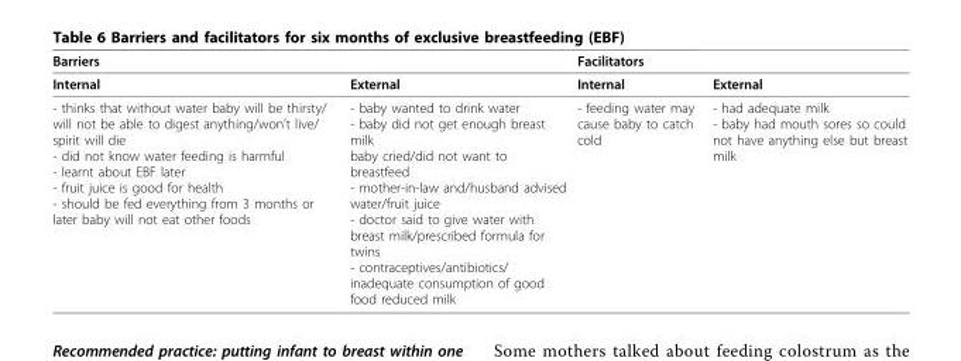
<table><thead><tr><td colspan="2">Barriers</td><td colspan="2">Facilitators</td></tr><tr><td>Internal</td><td>External</td><td>Internal</td><td>External</td></tr></thead><tbody><tr><td>- thinks that without water baby will be thirsty/ will not be able to digest anything/won’t live/ spirit will die - did not know water feeding is harmful - learnt about EBF later - fruit juice is good for health - should be fed everything from 3 months or later baby will not eat other foods</td><td>- baby wanted to drink water - baby did not get enough breast milk baby cried/did not want to breastfeed - mother-in-law and/husband advised water/fruit juice - doctor said to give water with breast milk/prescribed formula for twins - contraceptives/antibiotics/ inadequate consumption of good food reduced milk</td><td>- feeding water may cause baby to catch cold</td><td>- had adequate milk - baby had mouth sores so could not have anything else but breast milk</td></tr></tbody></table>